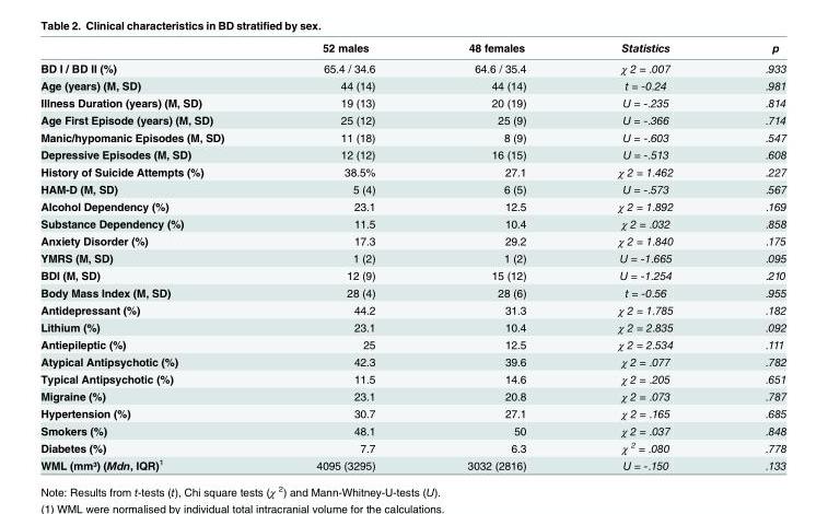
<table><thead><tr><td></td><td>52 males</td><td>48 females</td><td>Statistics</td><td>p</td></tr></thead><tbody><tr><td>BD I / BD II (%)</td><td>65.4 / 34.6</td><td>64.6 / 35.4</td><td>χ 2 = .007</td><td>.933</td></tr><tr><td>Age (years) (M, SD)</td><td>44 (14)</td><td>44 (14)</td><td>t = -0.24</td><td>.981</td></tr><tr><td>Illness Duration (years) (M, SD)</td><td>19 (13)</td><td>20 (19)</td><td>U = -.235</td><td>.814</td></tr><tr><td>Age First Episode (years) (M, SD)</td><td>25 (12)</td><td>25 (9)</td><td>U = -.366</td><td>.714</td></tr><tr><td>Manic/hypomanic Episodes (M, SD)</td><td>11 (18)</td><td>8 (9)</td><td>U = -.603</td><td>.547</td></tr><tr><td>Depressive Episodes (M, SD)</td><td>12 (12)</td><td>16 (15)</td><td>U = -.513</td><td>.608</td></tr><tr><td>History of Suicide Attempts (%)</td><td>38.5%</td><td>27.1</td><td>χ 2 = 1.462</td><td>.227</td></tr><tr><td>HAM-D (M, SD)</td><td>5 (4)</td><td>6 (5)</td><td>U = -.573</td><td>.567</td></tr><tr><td>Alcohol Dependency (%)</td><td>23.1</td><td>12.5</td><td>χ 2 = 1.892</td><td>.169</td></tr><tr><td>Substance Dependency (%)</td><td>11.5</td><td>10.4</td><td>χ 2 = .032</td><td>.858</td></tr><tr><td>Anxiety Disorder (%)</td><td>17.3</td><td>29.2</td><td>χ 2 = 1.840</td><td>.175</td></tr><tr><td>YMRS (M, SD)</td><td>1 (2)</td><td>1 (2)</td><td>U = -1.665</td><td>.095</td></tr><tr><td>BDI (M, SD)</td><td>12 (9)</td><td>15 (12)</td><td>U = -1.254</td><td>.210</td></tr><tr><td>Body Mass Index (M, SD)</td><td>28 (4)</td><td>28 (6)</td><td>t = -0.56</td><td>.955</td></tr><tr><td>Antidepressant (%)</td><td>44.2</td><td>31.3</td><td>χ 2 = 1.785</td><td>.182</td></tr><tr><td>Lithium (%)</td><td>23.1</td><td>10.4</td><td>χ 2 = 2.835</td><td>.092</td></tr><tr><td>Antiepileptic (%)</td><td>25</td><td>12.5</td><td>χ 2 = 2.534</td><td>.111</td></tr><tr><td>Atypical Antipsychotic (%)</td><td>42.3</td><td>39.6</td><td>χ 2 = .077</td><td>.782</td></tr><tr><td>Typical Antipsychotic (%)</td><td>11.5</td><td>14.6</td><td>χ 2 = .205</td><td>.651</td></tr><tr><td>Migraine (%)</td><td>23.1</td><td>20.8</td><td>χ 2 = .073</td><td>.787</td></tr><tr><td>Hypertension (%)</td><td>30.7</td><td>27.1</td><td>χ 2 = .165</td><td>.685</td></tr><tr><td>Smokers (%)</td><td>48.1</td><td>50</td><td>χ 2 = .037</td><td>.848</td></tr><tr><td>Diabetes (%)</td><td>7.7</td><td>6.3</td><td>χ <sup>2</sup> = .080</td><td>.778</td></tr><tr><td>WML (mm³) (Mdn, IQR)<sup>1</sup></td><td>4095 (3295)</td><td>3032 (2816)</td><td>U = -.150</td><td>.133</td></tr></tbody></table>